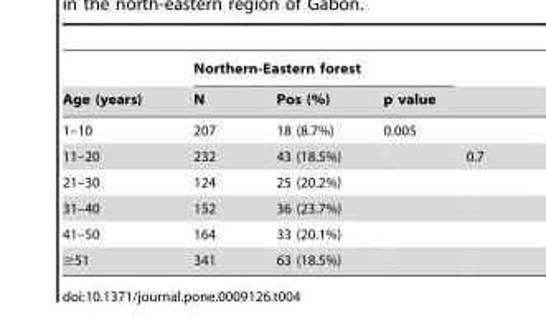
<table><thead><tr><td rowspan="3">Age (years) 1–10</td><td colspan="3">Northern-Eastern forest</td><td></td></tr><tr><td rowspan="2">N 207</td><td rowspan="2">Pos (%) 18 (8.7%)</td><td colspan="2">p value</td></tr><tr><td>0.005</td><td></td></tr></thead><tbody><tr><td>11–20</td><td>232</td><td>43 (18.5%)</td><td></td><td>0.7</td></tr><tr><td>21–30</td><td>124</td><td>25 (20.2%)</td><td></td><td></td></tr><tr><td>31–40</td><td>152</td><td>36 (23.7%)</td><td></td><td></td></tr><tr><td>41–50</td><td>164</td><td>33 (20.1%)</td><td></td><td></td></tr><tr><td>≥51</td><td>341</td><td>63 (18.5%)</td><td></td><td></td></tr></tbody></table>